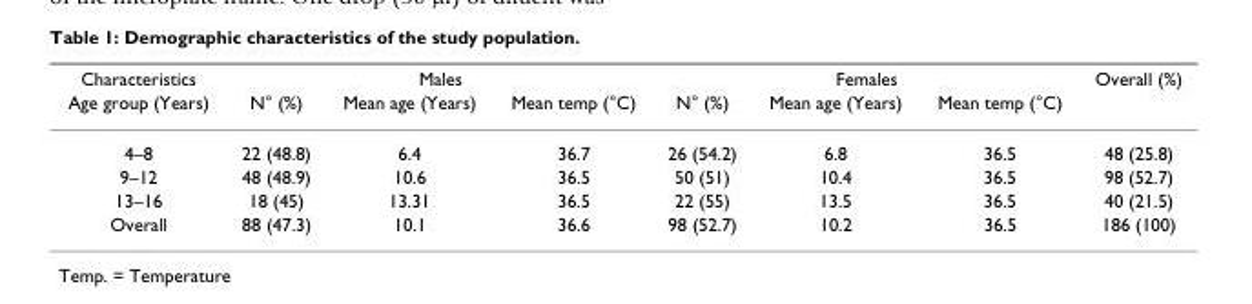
<table><thead><tr><td rowspan="2">Characteristics Age group (Years)</td><td colspan="3">Males</td><td colspan="3">Females</td><td rowspan="2">Overall (%)</td></tr><tr><td>N° (%)</td><td>Mean age (Years)</td><td>Mean temp (°C)</td><td>N° (%)</td><td>Mean age (Years)</td><td>Mean temp (°C)</td></tr></thead><tbody><tr><td>4–8</td><td>22 (48.8)</td><td>6.4</td><td>36.7</td><td>26 (54.2)</td><td>6.8</td><td>36.5</td><td>48 (25.8)</td></tr><tr><td>9–12</td><td>48 (48.9)</td><td>10.6</td><td>36.5</td><td>50 (51)</td><td>10.4</td><td>36.5</td><td>98 (52.7)</td></tr><tr><td>13–16</td><td>18 (45)</td><td>13.31</td><td>36.5</td><td>22 (55)</td><td>13.5</td><td>36.5</td><td>40 (21.5)</td></tr><tr><td>Overall</td><td>88 (47.3)</td><td>10.1</td><td>36.6</td><td>98 (52.7)</td><td>10.2</td><td>36.5</td><td>186 (100)</td></tr></tbody></table>